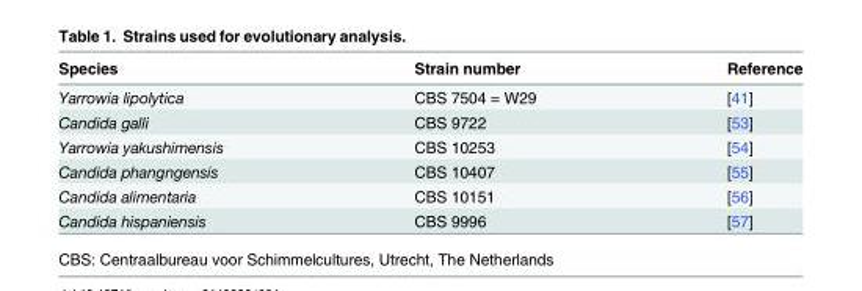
<table><thead><tr><td>Species</td><td>Strain number</td><td>Reference</td></tr></thead><tbody><tr><td>Yarrowia lipolytica</td><td>CBS 7504 = W29</td><td>[41]</td></tr><tr><td>Candida galli</td><td>CBS 9722</td><td>[53]</td></tr><tr><td>Yarrowia yakushimensis</td><td>CBS 10253</td><td>[54]</td></tr><tr><td>Candida phangngensis</td><td>CBS 10407</td><td>[55]</td></tr><tr><td>Candida alimentaria</td><td>CBS 10151</td><td>[56]</td></tr><tr><td>Candida hispaniensis</td><td>CBS 9996</td><td>[57]</td></tr></tbody></table>